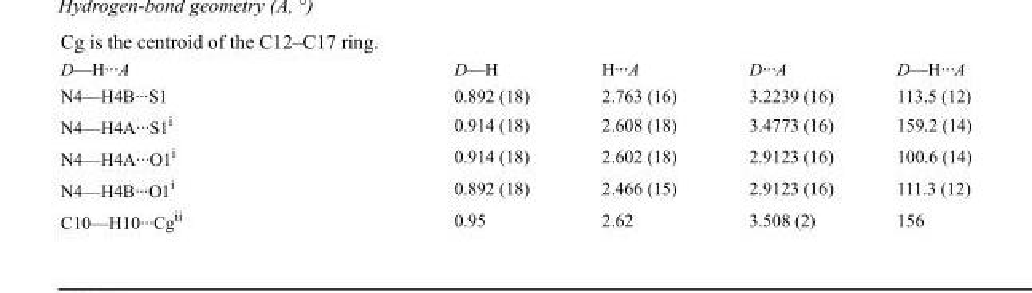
<table><tbody><tr><td>D—H···A</td><td>D—H</td><td>H···A</td><td>D···A</td><td>D—H···A</td></tr><tr><td>N4—H4B···S1</td><td>0.892 (18)</td><td>2.763 (16)</td><td>3.2239 (16)</td><td>113.5 (12)</td></tr><tr><td>N4—H4A···S1<sup>i</sup></td><td>0.914 (18)</td><td>2.608 (18)</td><td>3.4773 (16)</td><td>159.2 (14)</td></tr><tr><td>N4—H4A···O1<sup>i</sup></td><td>0.914 (18)</td><td>2.602 (18)</td><td>2.9123 (16)</td><td>100.6 (14)</td></tr><tr><td>N4—H4B···O1<sup>i</sup></td><td>0.892 (18)</td><td>2.466 (15)</td><td>2.9123 (16)</td><td>111.3 (12)</td></tr><tr><td>C10—H10···Cg<sup>ii</sup></td><td>0.95</td><td>2.62</td><td>3.508 (2)</td><td>156</td></tr></tbody></table>